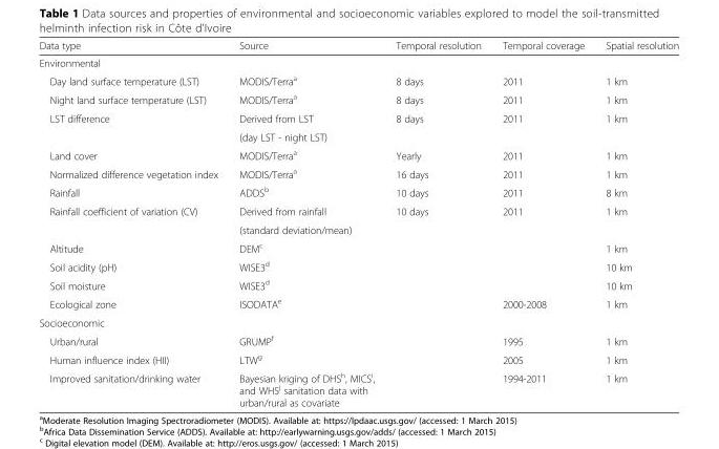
<table><thead><tr><td>Data type</td><td>Source</td><td>Temporal resolution</td><td>Temporal coverage</td><td>Spatial resolution</td></tr></thead><tbody><tr><td colspan="5">Environmental</td></tr><tr><td>Day land surface temperature (LST)</td><td>MODIS/Terra<sup>a</sup></td><td>8 days</td><td>2011</td><td>1 km</td></tr><tr><td>Night land surface temperature (LST)</td><td>MODIS/Terra<sup>a</sup></td><td>8 days</td><td>2011</td><td>1 km</td></tr><tr><td rowspan="2">LST difference</td><td>Derived from LST</td><td>8 days</td><td>2011</td><td>1 km</td></tr><tr><td>(day LST - night LST)</td><td></td><td></td><td></td></tr><tr><td>Land cover</td><td>MODIS/Terra<sup>a</sup></td><td>Yearly</td><td>2011</td><td>1 km</td></tr><tr><td>Normalized difference vegetation index</td><td>MODIS/Terra<sup>a</sup></td><td>16 days</td><td>2011</td><td>1 km</td></tr><tr><td>Rainfall</td><td>ADDS<sup>b</sup></td><td>10 days</td><td>2011</td><td>8 km</td></tr><tr><td rowspan="2">Rainfall coefficient of variation (CV)</td><td>Derived from rainfall</td><td>10 days</td><td>2011</td><td>1 km</td></tr><tr><td>(standard deviation/mean)</td><td></td><td></td><td></td></tr><tr><td>Altitude</td><td>DEM<sup>c</sup></td><td></td><td></td><td>1 km</td></tr><tr><td>Soil acidity (pH)</td><td>WISE3<sup>d</sup></td><td></td><td></td><td>10 km</td></tr><tr><td>Soil moisture</td><td>WISE3<sup>d</sup></td><td></td><td></td><td>10 km</td></tr><tr><td>Ecological zone</td><td>ISODATA<sup>e</sup></td><td></td><td>2000-2008</td><td>1 km</td></tr><tr><td colspan="5">Socioeconomic</td></tr><tr><td>Urban/rural</td><td>GRUMP<sup>f</sup></td><td></td><td>1995</td><td>1 km</td></tr><tr><td>Human influence index (HII)</td><td>LTW<sup>g</sup></td><td></td><td>2005</td><td>1 km</td></tr><tr><td>Improved sanitation/drinking water</td><td>Bayesian kriging of DHS<sup>h</sup>, MICS<sup>i</sup>, and WHS<sup>j</sup> sanitation data with urban/rural as covariate</td><td></td><td>1994-2011</td><td>1 km</td></tr></tbody></table>